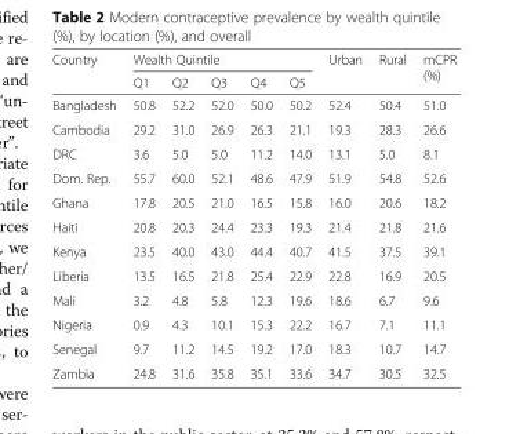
<table><thead><tr><td rowspan="2">Country</td><td colspan="5">Wealth Quintile</td><td rowspan="2">Urban</td><td rowspan="2">Rural</td><td rowspan="2">mCPR (%)</td></tr><tr><td>Q1</td><td>Q2</td><td>Q3</td><td>Q4</td><td>Q5</td></tr></thead><tbody><tr><td>Bangladesh</td><td>50.8</td><td>52.2</td><td>52.0</td><td>50.0</td><td>50.2</td><td>52.4</td><td>50.4</td><td>51.0</td></tr><tr><td>Cambodia</td><td>29.2</td><td>31.0</td><td>26.9</td><td>26.3</td><td>21.1</td><td>19.3</td><td>28.3</td><td>26.6</td></tr><tr><td>DRC</td><td>3.6</td><td>5.0</td><td>5.0</td><td>11.2</td><td>14.0</td><td>13.1</td><td>5.0</td><td>8.1</td></tr><tr><td>Dom. Rep.</td><td>55.7</td><td>60.0</td><td>52.1</td><td>48.6</td><td>47.9</td><td>51.9</td><td>54.8</td><td>52.6</td></tr><tr><td>Ghana</td><td>17.8</td><td>20.5</td><td>21.0</td><td>16.5</td><td>15.8</td><td>16.0</td><td>20.6</td><td>18.2</td></tr><tr><td>Haiti</td><td>20.8</td><td>20.3</td><td>24.4</td><td>23.3</td><td>19.3</td><td>21.4</td><td>21.8</td><td>21.6</td></tr><tr><td>Kenya</td><td>23.5</td><td>40.0</td><td>43.0</td><td>44.4</td><td>40.7</td><td>41.5</td><td>37.5</td><td>39.1</td></tr><tr><td>Liberia</td><td>13.5</td><td>16.5</td><td>21.8</td><td>25.4</td><td>22.9</td><td>22.8</td><td>16.9</td><td>20.5</td></tr><tr><td>Mali</td><td>3.2</td><td>4.8</td><td>5.8</td><td>12.3</td><td>19.6</td><td>18.6</td><td>6.7</td><td>9.6</td></tr><tr><td>Nigeria</td><td>0.9</td><td>4.3</td><td>10.1</td><td>15.3</td><td>22.2</td><td>16.7</td><td>7.1</td><td>11.1</td></tr><tr><td>Senegal</td><td>9.7</td><td>11.2</td><td>14.5</td><td>19.2</td><td>17.0</td><td>18.3</td><td>10.7</td><td>14.7</td></tr><tr><td>Zambia</td><td>24.8</td><td>31.6</td><td>35.8</td><td>35.1</td><td>33.6</td><td>34.7</td><td>30.5</td><td>32.5</td></tr></tbody></table>